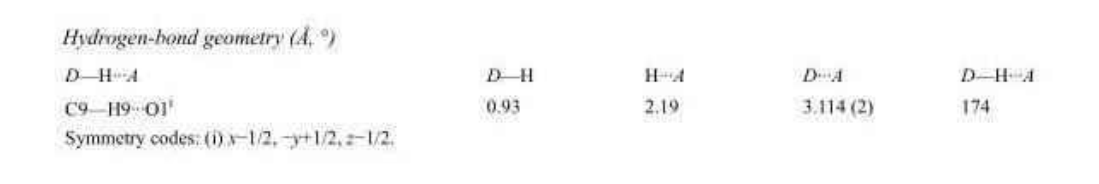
<table><tbody><tr><td>D—H···A</td><td>D—H</td><td>H···A</td><td>D···A</td><td>D—H···A</td></tr><tr><td>C9—H9···O1<sup>i</sup></td><td>0.93</td><td>2.19</td><td>3.114 (2)</td><td>174</td></tr></tbody></table>